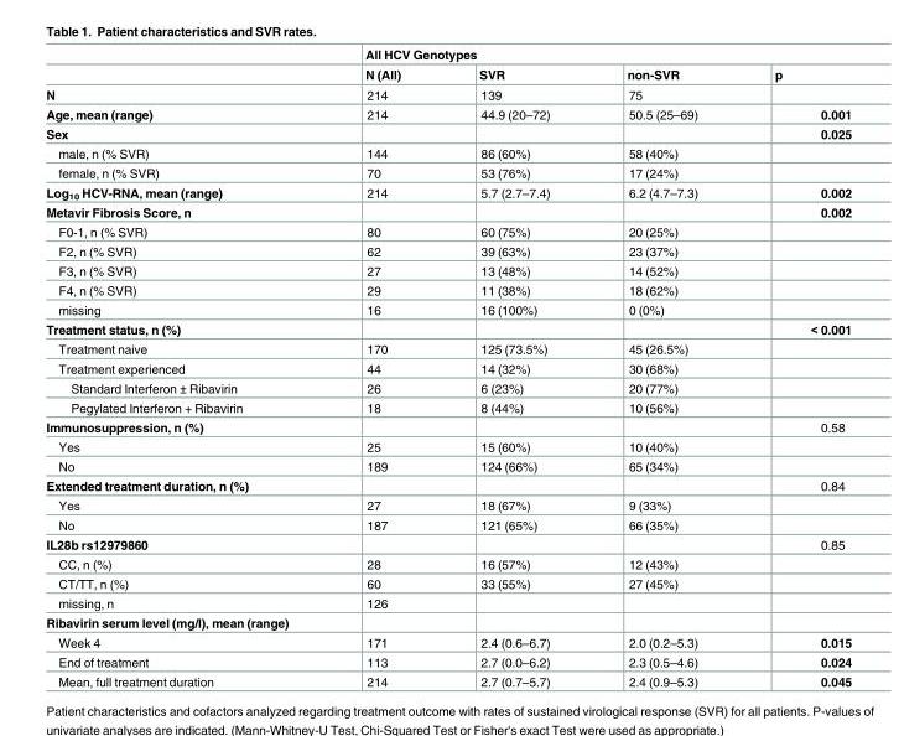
<table><thead><tr><td rowspan="2"></td><td colspan="4">All HCV Genotypes</td></tr><tr><td>N (All)</td><td>SVR</td><td>non-SVR</td><td>p</td></tr></thead><tbody><tr><td>N</td><td>214</td><td>139</td><td>75</td><td></td></tr><tr><td>Age, mean (range)</td><td>214</td><td>44.9 (20–72)</td><td>50.5 (25–69)</td><td>0.001</td></tr><tr><td>Sex</td><td></td><td></td><td></td><td>0.025</td></tr><tr><td>male, n (% SVR)</td><td>144</td><td>86 (60%)</td><td>58 (40%)</td><td></td></tr><tr><td>female, n (% SVR)</td><td>70</td><td>53 (76%)</td><td>17 (24%)</td><td></td></tr><tr><td>Log<sub>10</sub> HCV-RNA, mean (range)</td><td>214</td><td>5.7 (2.7–7.4)</td><td>6.2 (4.7–7.3)</td><td>0.002</td></tr><tr><td>Metavir Fibrosis Score, n</td><td></td><td></td><td></td><td>0.002</td></tr><tr><td>F0-1, n (% SVR)</td><td>80</td><td>60 (75%)</td><td>20 (25%)</td><td></td></tr><tr><td>F2, n (% SVR)</td><td>62</td><td>39 (63%)</td><td>23 (37%)</td><td></td></tr><tr><td>F3, n (% SVR)</td><td>27</td><td>13 (48%)</td><td>14 (52%)</td><td></td></tr><tr><td>F4, n (% SVR)</td><td>29</td><td>11 (38%)</td><td>18 (62%)</td><td></td></tr><tr><td>missing</td><td>16</td><td>16 (100%)</td><td>0 (0%)</td><td></td></tr><tr><td>Treatment status, n (%)</td><td></td><td></td><td></td><td>&lt; 0.001</td></tr><tr><td>Treatment naive</td><td>170</td><td>125 (73.5%)</td><td>45 (26.5%)</td><td></td></tr><tr><td>Treatment experienced</td><td>44</td><td>14 (32%)</td><td>30 (68%)</td><td></td></tr><tr><td>Standard Interferon ± Ribavirin</td><td>26</td><td>6 (23%)</td><td>20 (77%)</td><td></td></tr><tr><td>Pegylated Interferon + Ribavirin</td><td>18</td><td>8 (44%)</td><td>10 (56%)</td><td></td></tr><tr><td>Immunosuppression, n (%)</td><td></td><td></td><td></td><td>0.58</td></tr><tr><td>Yes</td><td>25</td><td>15 (60%)</td><td>10 (40%)</td><td></td></tr><tr><td>No</td><td>189</td><td>124 (66%)</td><td>65 (34%)</td><td></td></tr><tr><td>Extended treatment duration, n (%)</td><td></td><td></td><td></td><td>0.84</td></tr><tr><td>Yes</td><td>27</td><td>18 (67%)</td><td>9 (33%)</td><td></td></tr><tr><td>No</td><td>187</td><td>121 (65%)</td><td>66 (35%)</td><td></td></tr><tr><td>IL28b rs12979860</td><td></td><td></td><td></td><td>0.85</td></tr><tr><td>CC, n (%)</td><td>28</td><td>16 (57%)</td><td>12 (43%)</td><td></td></tr><tr><td>CT/TT, n (%)</td><td>60</td><td>33 (55%)</td><td>27 (45%)</td><td></td></tr><tr><td>missing, n</td><td>126</td><td></td><td></td><td></td></tr><tr><td colspan="5">Ribavirin serum level (mg/l), mean (range)</td></tr><tr><td>Week 4</td><td>171</td><td>2.4 (0.6–6.7)</td><td>2.0 (0.2–5.3)</td><td>0.015</td></tr><tr><td>End of treatment</td><td>113</td><td>2.7 (0.0–6.2)</td><td>2.3 (0.5–4.6)</td><td>0.024</td></tr><tr><td>Mean, full treatment duration</td><td>214</td><td>2.7 (0.7–5.7)</td><td>2.4 (0.9–5.3)</td><td>0.045</td></tr></tbody></table>